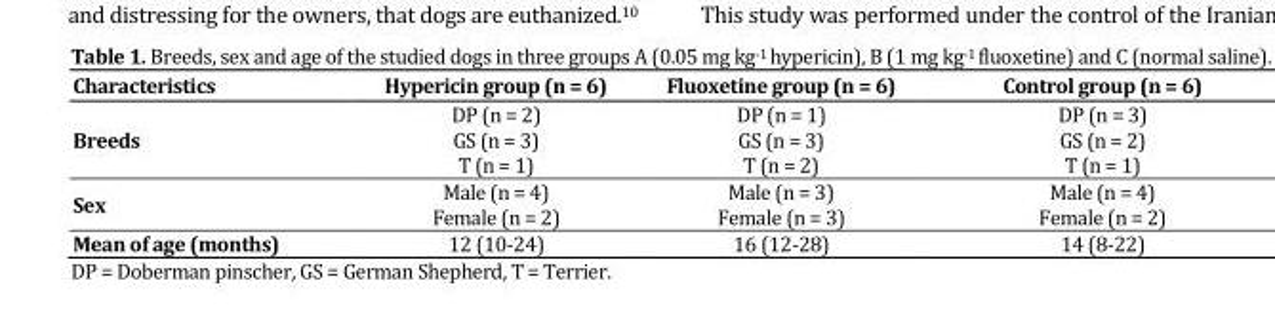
<table><thead><tr><td>Characteristics</td><td>Hypericin group (n = 6)</td><td>Fluoxetine group (n = 6)</td><td>Control group (n = 6)</td></tr></thead><tbody><tr><td>Breeds</td><td>DP (n = 2) GS (n = 3) T (n = 1)</td><td>DP (n = 1) GS (n = 3) T (n = 2)</td><td>DP (n = 3) GS (n = 2) T (n = 1)</td></tr><tr><td>Sex</td><td>Male (n = 4) Female (n = 2)</td><td>Male (n = 3) Female (n = 3)</td><td>Male (n = 4) Female (n = 2)</td></tr><tr><td>Mean of age (months)</td><td>12 (10-24)</td><td>16 (12-28)</td><td>14 (8-22)</td></tr></tbody></table>